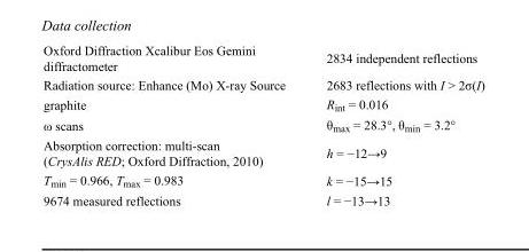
<table><tbody><tr><td>Oxford Diffraction Xcalibur Eos Gemini diffractometer</td><td>2834 independent reflections</td></tr><tr><td>Radiation source: Enhance (Mo) X-ray Source</td><td>2683 reflections with I &gt; 2σ(I)</td></tr><tr><td>graphite</td><td>R<sub>int</sub> = 0.016</td></tr><tr><td>ω scans</td><td>θ<sub>max</sub> = 28.3°, θ<sub>min</sub> = 3.2°</td></tr><tr><td>Absorption correction: multi-scan (CrysAlis RED; Oxford Diffraction, 2010)</td><td>h = −12→9</td></tr><tr><td>T<sub>min</sub> = 0.966, T<sub>max</sub> = 0.983</td><td>k = −15→15</td></tr><tr><td>9674 measured reflections</td><td>l = −13→13</td></tr></tbody></table>